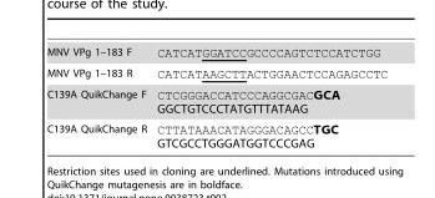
<table><tbody><tr><td>MNV VPg 1–183 F</td><td>CATCATGGATCCGCCCCAGTCTCCATCTGG</td></tr><tr><td>MNV VPg 1–183 R</td><td>CATCATAAGCTTACTGGAACTCCAGAGCCTC</td></tr><tr><td>C139A QuikChange F</td><td>CTCGGGACCATCCCAGGCGACGCA GGCTGTCCCTATGTTTATAAG</td></tr><tr><td>C139A QuikChange R</td><td>CTTATAAACATAGGGACAGCCTGC GTCGCCTGGGATGGTCCCGAG</td></tr></tbody></table>